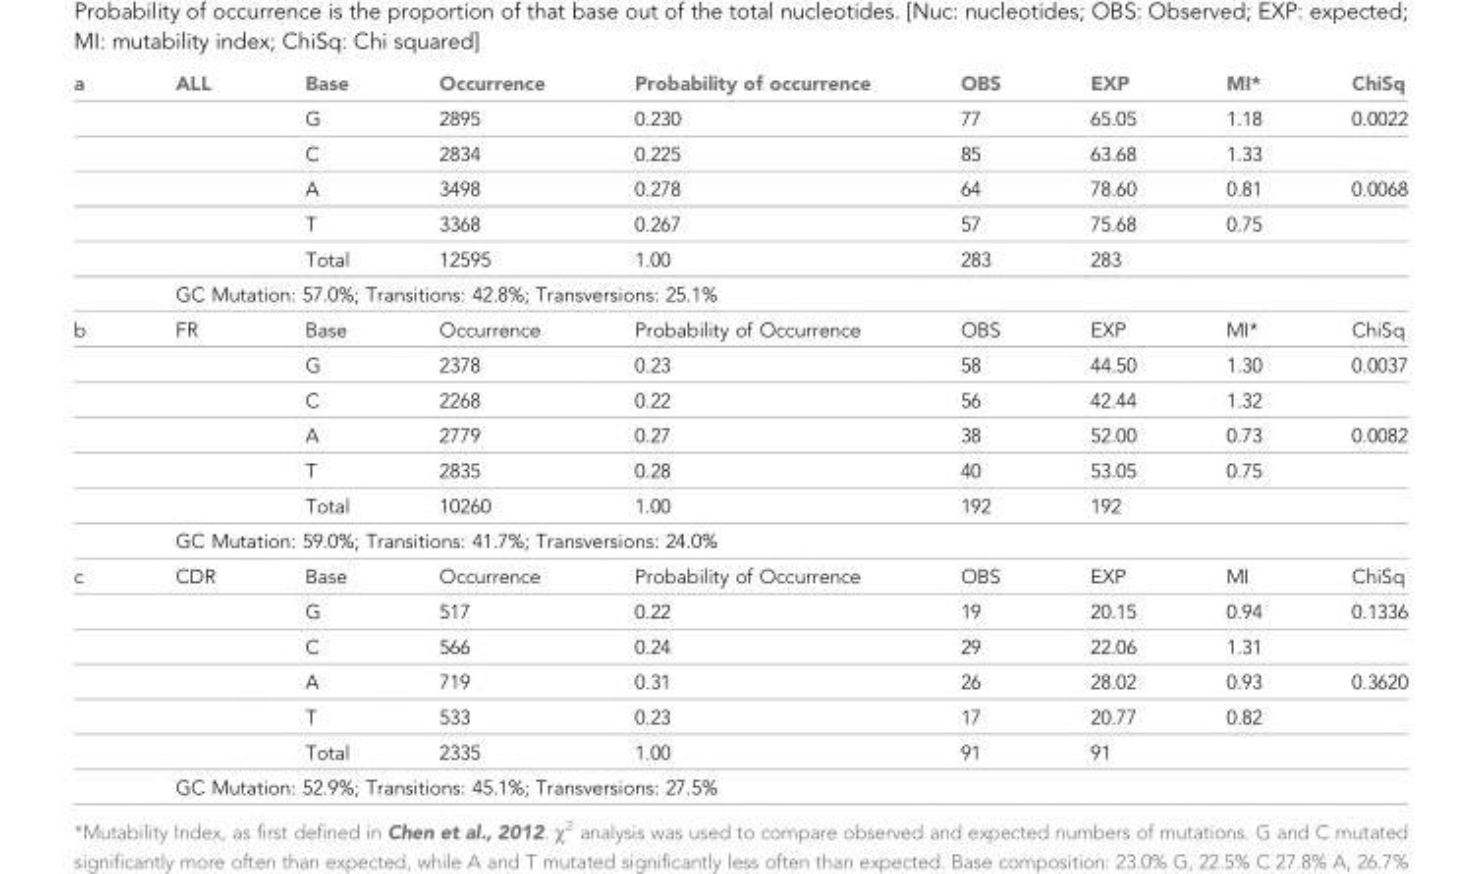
<table><thead><tr><td>a</td><td>ALL</td><td>Base</td><td>Occurrence</td><td>Probability of occurrence</td><td>OBS</td><td>EXP</td><td>MI*</td><td>ChiSq</td></tr></thead><tbody><tr><td></td><td></td><td>G</td><td>2895</td><td>0.230</td><td>77</td><td>65.05</td><td>1.18</td><td>0.0022</td></tr><tr><td></td><td></td><td>C</td><td>2834</td><td>0.225</td><td>85</td><td>63.68</td><td>1.33</td><td></td></tr><tr><td></td><td></td><td>A</td><td>3498</td><td>0.278</td><td>64</td><td>78.60</td><td>0.81</td><td>0.0068</td></tr><tr><td></td><td></td><td>T</td><td>3368</td><td>0.267</td><td>57</td><td>75.68</td><td>0.75</td><td></td></tr><tr><td></td><td></td><td>Total</td><td>12595</td><td>1.00</td><td>283</td><td>283</td><td></td><td></td></tr><tr><td></td><td colspan="8">GC Mutation: 57.0%; Transitions: 42.8%; Transversions: 25.1%</td></tr><tr><td rowspan="7">b</td><td>FR</td><td>Base</td><td>Occurrence</td><td>Probability of Occurrence</td><td>OBS</td><td>EXP</td><td>MI*</td><td>ChiSq</td></tr><tr><td></td><td>G</td><td>2378</td><td>0.23</td><td>58</td><td>44.50</td><td>1.30</td><td>0.0037</td></tr><tr><td></td><td>C</td><td>2268</td><td>0.22</td><td>56</td><td>42.44</td><td>1.32</td><td></td></tr><tr><td></td><td>A</td><td>2779</td><td>0.27</td><td>38</td><td>52.00</td><td>0.73</td><td>0.0082</td></tr><tr><td></td><td>T</td><td>2835</td><td>0.28</td><td>40</td><td>53.05</td><td>0.75</td><td></td></tr><tr><td></td><td>Total</td><td>10260</td><td>1.00</td><td>192</td><td>192</td><td></td><td></td></tr><tr><td colspan="8">GC Mutation: 59.0%; Transitions: 41.7%; Transversions: 24.0%</td></tr><tr><td rowspan="7">c</td><td>CDR</td><td>Base</td><td>Occurrence</td><td>Probability of Occurrence</td><td>OBS</td><td>EXP</td><td>MI</td><td>ChiSq</td></tr><tr><td></td><td>G</td><td>517</td><td>0.22</td><td>19</td><td>20.15</td><td>0.94</td><td>0.1336</td></tr><tr><td></td><td>C</td><td>566</td><td>0.24</td><td>29</td><td>22.06</td><td>1.31</td><td></td></tr><tr><td></td><td>A</td><td>719</td><td>0.31</td><td>26</td><td>28.02</td><td>0.93</td><td>0.3620</td></tr><tr><td></td><td>T</td><td>533</td><td>0.23</td><td>17</td><td>20.77</td><td>0.82</td><td></td></tr><tr><td></td><td>Total</td><td>2335</td><td>1.00</td><td>91</td><td>91</td><td></td><td></td></tr><tr><td colspan="8">GC Mutation: 52.9%; Transitions: 45.1%; Transversions: 27.5%</td></tr></tbody></table>